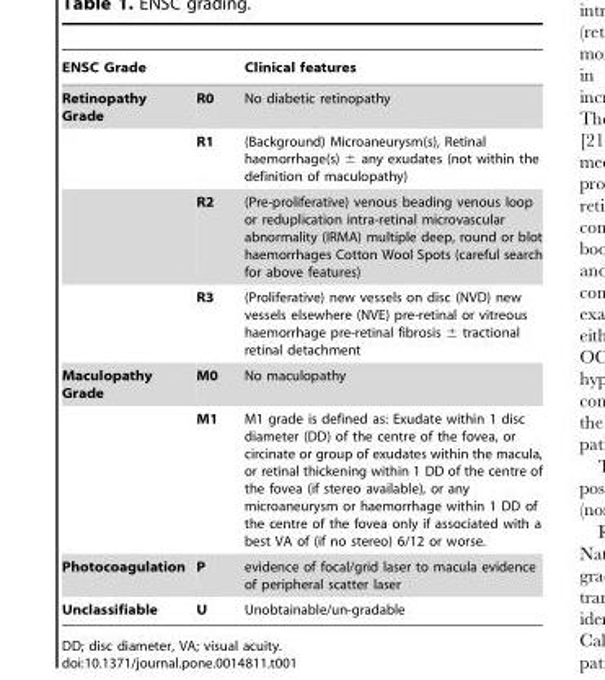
<table><thead><tr><td colspan="2">ENSC Grade</td><td rowspan="2">Clinical features No diabetic retinopathy</td></tr><tr><td>Retinopathy Grade</td><td>R0</td></tr></thead><tbody><tr><td></td><td>R1</td><td>(Background) Microaneurysm(s), Retinal haemorrhage(s) ± any exudates (not within the definition of maculopathy)</td></tr><tr><td></td><td>R2</td><td>(Pre-proliferative) venous beading venous loop or reduplication intra-retinal microvascular abnormality (IRMA) multiple deep, round or blot haemorrhages Cotton Wool Spots (careful search for above features)</td></tr><tr><td></td><td>R3</td><td>(Proliferative) new vessels on disc (NVD) new vessels elsewhere (NVE) pre-retinal or vitreous haemorrhage pre-retinal fibrosis ± tractional retinal detachment</td></tr><tr><td rowspan="2">Maculopathy Grade</td><td>M0</td><td>No maculopathy</td></tr><tr><td>M1</td><td>M1 grade is defined as: Exudate within 1 disc diameter (DD) of the centre of the fovea, or circinate or group of exudates within the macula, or retinal thickening within 1 DD of the centre of the fovea (if stereo available), or any microaneurysm or haemorrhage within 1 DD of the centre of the fovea only if associated with a best VA of (if no stereo) 6/12 or worse.</td></tr><tr><td>Photocoagulation</td><td>P</td><td>evidence of focal/grid laser to macula evidence of peripheral scatter laser</td></tr><tr><td>Unclassifiable</td><td>U</td><td>Unobtainable/un-gradable</td></tr></tbody></table>